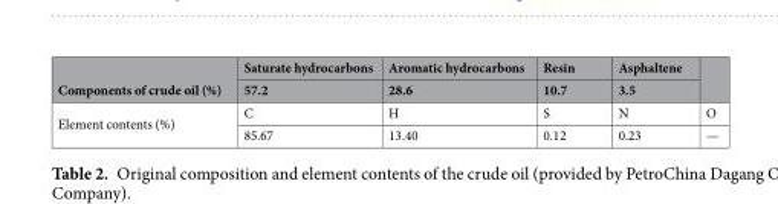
<table><thead><tr><td rowspan="2">Components of crude oil (%)</td><td rowspan="2">Saturate hydrocarbons 57.2</td><td rowspan="2">Aromatic hydrocarbons 28.6</td><td rowspan="2">Resin 10.7</td><td rowspan="2">Asphaltene 3.5</td><td rowspan="2"></td></tr><tr></tr></thead><tbody><tr><td rowspan="2">Element contents (%)</td><td>C</td><td>H</td><td>S</td><td>N</td><td>O</td></tr><tr><td>85.67</td><td>13.40</td><td>0.12</td><td>0.23</td><td>—</td></tr></tbody></table>